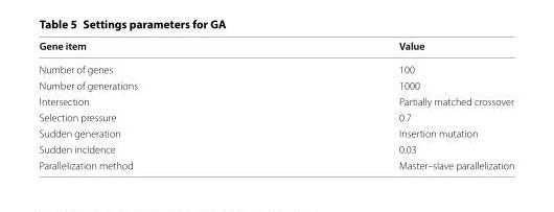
<table><thead><tr><td>Gene item</td><td>Value</td></tr></thead><tbody><tr><td>Number of genes</td><td>100</td></tr><tr><td>Number of generations</td><td>1000</td></tr><tr><td>Intersection</td><td>Partially matched crossover</td></tr><tr><td>Selection pressure</td><td>0.7</td></tr><tr><td>Sudden generation</td><td>Insertion mutation</td></tr><tr><td>Sudden incidence</td><td>0.03</td></tr><tr><td>Parallelization method</td><td>Master–slave parallelization</td></tr></tbody></table>